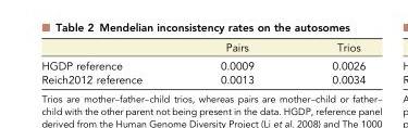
<table><thead><tr><td></td><td>Pairs</td><td>Trios</td></tr></thead><tbody><tr><td>HGDP reference</td><td>0.0009</td><td>0.0026</td></tr><tr><td>Reich2012 reference</td><td>0.0013</td><td>0.0034</td></tr></tbody></table>